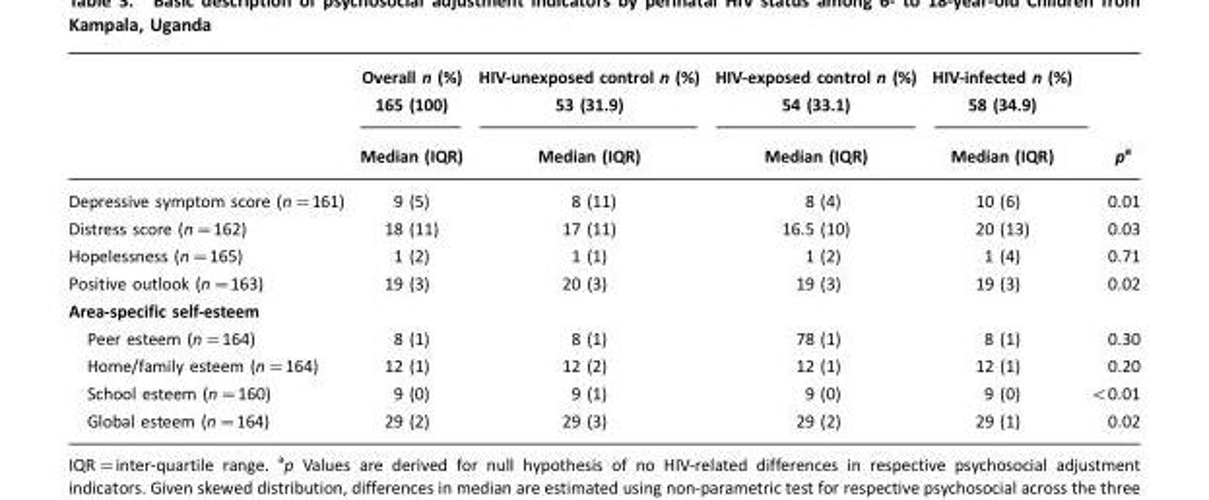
<table><thead><tr><td rowspan="2"></td><td rowspan="2">Overall n (%) 165 (100) Median (IQR)</td><td rowspan="2">HIV-unexposed control n (%) 53 (31.9) Median (IQR)</td><td rowspan="2">HIV-exposed control n (%) 54 (33.1) Median (IQR)</td><td rowspan="2">HIV-infected n (%) 58 (34.9) Median (IQR)</td><td rowspan="2">p<sup>a</sup></td></tr><tr></tr></thead><tbody><tr><td>Depressive symptom score (n=161)</td><td>9 (5)</td><td>8 (11)</td><td>8 (4)</td><td>10 (6)</td><td>0.01</td></tr><tr><td>Distress score (n=162)</td><td>18 (11)</td><td>17 (11)</td><td>16.5 (10)</td><td>20 (13)</td><td>0.03</td></tr><tr><td>Hopelessness (n=165)</td><td>1 (2)</td><td>1 (1)</td><td>1 (2)</td><td>1 (4)</td><td>0.71</td></tr><tr><td>Positive outlook (n=163)</td><td>19 (3)</td><td>20 (3)</td><td>19 (3)</td><td>19 (3)</td><td>0.02</td></tr><tr><td colspan="6">Area-specific self-esteem</td></tr><tr><td>Peer esteem (n=164)</td><td>8 (1)</td><td>8 (1)</td><td>78 (1)</td><td>8 (1)</td><td>0.30</td></tr><tr><td>Home/family esteem (n=164)</td><td>12 (1)</td><td>12 (2)</td><td>12 (1)</td><td>12 (1)</td><td>0.20</td></tr><tr><td>School esteem (n=160)</td><td>9 (0)</td><td>9 (1)</td><td>9 (0)</td><td>9 (0)</td><td>&lt;0.01</td></tr><tr><td>Global esteem (n=164)</td><td>29 (2)</td><td>29 (3)</td><td>29 (2)</td><td>29 (1)</td><td>0.02</td></tr></tbody></table>